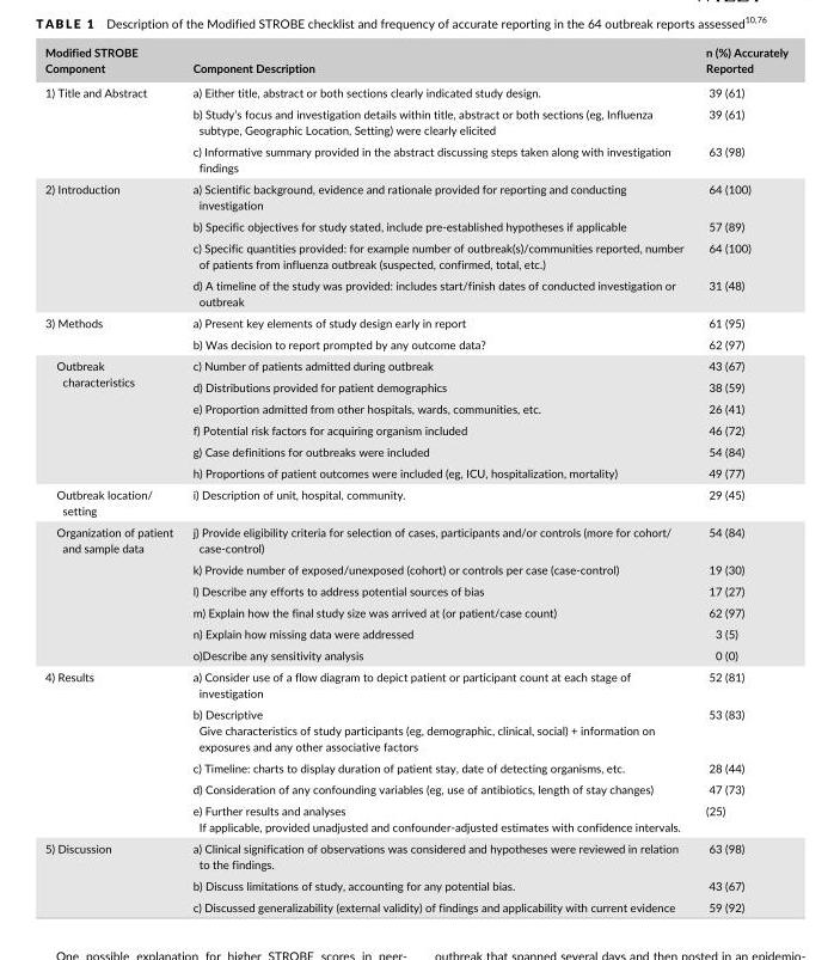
<table><thead><tr><td>Modified STROBE Component</td><td>Component Description</td><td>n (%) Accurately Reported</td></tr></thead><tbody><tr><td rowspan="3">1) Title and Abstract</td><td>a) Either title, abstract or both sections clearly indicated study design.</td><td>39 (61)</td></tr><tr><td>b) Study’s focus and investigation details within title, abstract or both sections (eg, Influenza subtype, Geographic Location, Setting) were clearly elicited</td><td>39 (61)</td></tr><tr><td>c) Informative summary provided in the abstract discussing steps taken along with investigation findings</td><td>63 (98)</td></tr><tr><td rowspan="4">2) Introduction</td><td>a) Scientific background, evidence and rationale provided for reporting and conducting investigation</td><td>64 (100)</td></tr><tr><td>b) Specific objectives for study stated, include pre- established hypotheses if applicable</td><td>57 (89)</td></tr><tr><td>c) Specific quantities provided: for example number of outbreak(s)/communities reported, number of patients from influenza outbreak (suspected, confirmed, total, etc.)</td><td>64 (100)</td></tr><tr><td>d) A timeline of the study was provided: includes start/finish dates of conducted investigation or outbreak</td><td>31 (48)</td></tr><tr><td rowspan="2">3) Methods</td><td>a) Present key elements of study design early in report</td><td>61 (95)</td></tr><tr><td>b) Was decision to report prompted by any outcome data?</td><td>62 (97)</td></tr><tr><td rowspan="6">Outbreak characteristics</td><td>c) Number of patients admitted during outbreak</td><td>43 (67)</td></tr><tr><td>d) Distributions provided for patient demographics</td><td>38 (59)</td></tr><tr><td>e) Proportion admitted from other hospitals, wards, communities, etc.</td><td>26 (41)</td></tr><tr><td>f) Potential risk factors for acquiring organism included</td><td>46 (72)</td></tr><tr><td>g) Case definitions for outbreaks were included</td><td>54 (84)</td></tr><tr><td>h) Proportions of patient outcomes were included (eg, ICU, hospitalization, mortality)</td><td>49 (77)</td></tr><tr><td>Outbreak location/ setting</td><td>i) Description of unit, hospital, community.</td><td>29 (45)</td></tr><tr><td rowspan="6">Organization of patient and sample data</td><td>j) Provide eligibility criteria for selection of cases, participants and/or controls (more for cohort/ case- control)</td><td>54 (84)</td></tr><tr><td>k) Provide number of exposed/unexposed (cohort) or controls per case (case- control)</td><td>19 (30)</td></tr><tr><td>l) Describe any efforts to address potential sources of bias</td><td>17 (27)</td></tr><tr><td>m) Explain how the final study size was arrived at (or patient/case count)</td><td>62 (97)</td></tr><tr><td>n) Explain how missing data were addressed</td><td>3 (5)</td></tr><tr><td>o)Describe any sensitivity analysis</td><td>0 (0)</td></tr><tr><td rowspan="5">4) Results</td><td>a) Consider use of a flow diagram to depict patient or participant count at each stage of investigation</td><td>52 (81)</td></tr><tr><td>b) Descriptive Give characteristics of study participants (eg, demographic, clinical, social) + information on exposures and any other associative factors</td><td>53 (83)</td></tr><tr><td>c) Timeline: charts to display duration of patient stay, date of detecting organisms, etc.</td><td>28 (44)</td></tr><tr><td>d) Consideration of any confounding variables (eg, use of antibiotics, length of stay changes)</td><td>47 (73)</td></tr><tr><td>e) Further results and analyses If applicable, provided unadjusted and confounder- adjusted estimates with confidence intervals.</td><td>(25)</td></tr><tr><td rowspan="3">5) Discussion</td><td>a) Clinical signification of observations was considered and hypotheses were reviewed in relation to the findings.</td><td>63 (98)</td></tr><tr><td>b) Discuss limitations of study, accounting for any potential bias.</td><td>43 (67)</td></tr><tr><td>c) Discussed generalizability (external validity) of findings and applicability with current evidence</td><td>59 (92)</td></tr></tbody></table>